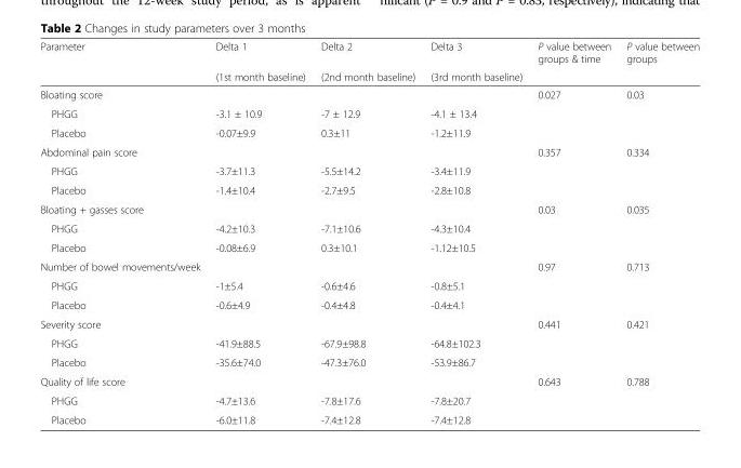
<table><thead><tr><td rowspan="2">Parameter</td><td rowspan="2">Delta 1 (1st month baseline)</td><td rowspan="2">Delta 2 (2nd month baseline)</td><td rowspan="2">Delta 3 (3rd month baseline)</td><td rowspan="2">P value between groups &amp; time</td><td rowspan="2">P value between groups</td></tr><tr></tr></thead><tbody><tr><td>Bloating score</td><td></td><td></td><td></td><td>0.027</td><td>0.03</td></tr><tr><td>PHGG</td><td>-3.1 ± 10.9</td><td>-7 ± 12.9</td><td>-4.1 ± 13.4</td><td></td><td></td></tr><tr><td>Placebo</td><td>-0.07±9.9</td><td>0.3±11</td><td>-1.2±11.9</td><td></td><td></td></tr><tr><td>Abdominal pain score</td><td></td><td></td><td></td><td>0.357</td><td>0.334</td></tr><tr><td>PHGG</td><td>-3.7±11.3</td><td>-5.5±14.2</td><td>-3.4±11.9</td><td></td><td></td></tr><tr><td>Placebo</td><td>-1.4±10.4</td><td>-2.7±9.5</td><td>-2.8±10.8</td><td></td><td></td></tr><tr><td>Bloating + gasses score</td><td></td><td></td><td></td><td>0.03</td><td>0.035</td></tr><tr><td>PHGG</td><td>-4.2±10.3</td><td>-7.1±10.6</td><td>-4.3±10.4</td><td></td><td></td></tr><tr><td>Placebo</td><td>-0.08±6.9</td><td>0.3±10.1</td><td>-1.12±10.5</td><td></td><td></td></tr><tr><td>Number of bowel movements/week</td><td></td><td></td><td></td><td>0.97</td><td>0.713</td></tr><tr><td>PHGG</td><td>-1±5.4</td><td>-0.6±4.6</td><td>-0.8±5.1</td><td></td><td></td></tr><tr><td>Placebo</td><td>-0.6±4.9</td><td>-0.4±4.8</td><td>-0.4±4.1</td><td></td><td></td></tr><tr><td>Severity score</td><td></td><td></td><td></td><td>0.441</td><td>0.421</td></tr><tr><td>PHGG</td><td>-41.9±88.5</td><td>-67.9±98.8</td><td>-64.8±102.3</td><td></td><td></td></tr><tr><td>Placebo</td><td>-35.6±74.0</td><td>-47.3±76.0</td><td>-53.9±86.7</td><td></td><td></td></tr><tr><td>Quality of life score</td><td></td><td></td><td></td><td>0.643</td><td>0.788</td></tr><tr><td>PHGG</td><td>-4.7±13.6</td><td>-7.8±17.6</td><td>-7.8±20.7</td><td></td><td></td></tr><tr><td>Placebo</td><td>-6.0±11.8</td><td>-7.4±12.8</td><td>-7.4±12.8</td><td></td><td></td></tr></tbody></table>